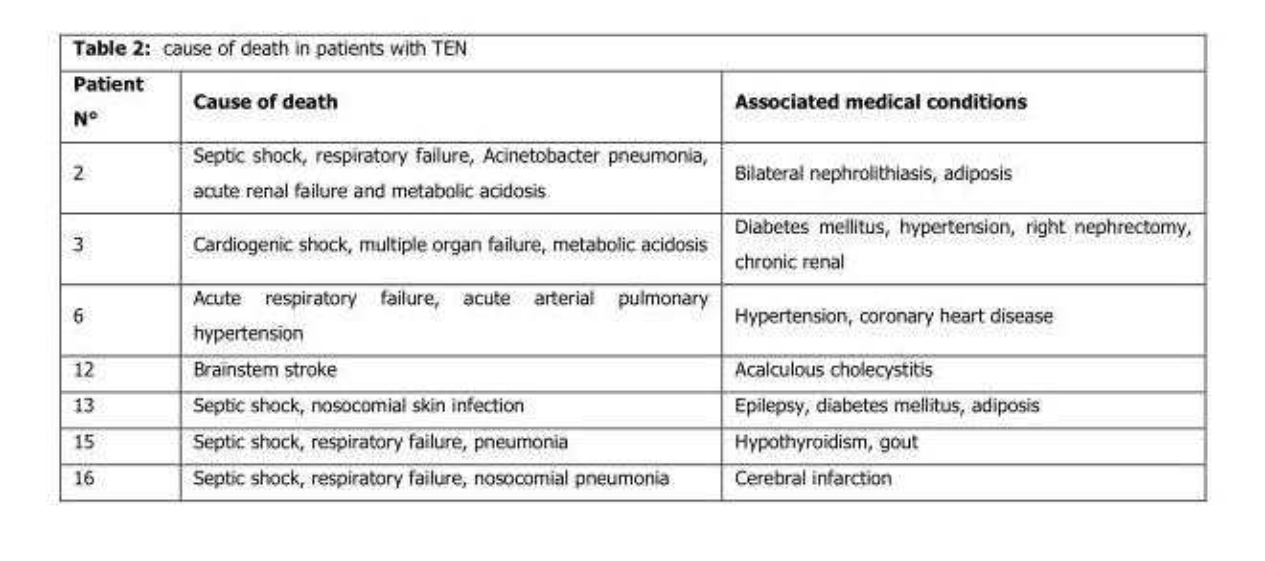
<table><thead><tr><td>Patient N°</td><td>Cause of death</td><td>Associated medical conditions</td></tr></thead><tbody><tr><td>2</td><td>Septic shock, respiratory failure, Acinetobacter pneumonia, acute renal failure and metabolic acidosis</td><td>Bilateral nephrolithiasis, adiposis</td></tr><tr><td>3</td><td>Cardiogenic shock, multiple organ failure, metabolic acidosis</td><td>Diabetes mellitus, hypertension, right nephrectomy, chronic renal</td></tr><tr><td>6</td><td>Acute respiratory failure, acute arterial pulmonary hypertension</td><td>Hypertension, coronary heart disease</td></tr><tr><td>12</td><td>Brainstem stroke</td><td>Acalculous cholecystitis</td></tr><tr><td>13</td><td>Septic shock, nosocomial skin infection</td><td>Epilepsy, diabetes mellitus, adiposis</td></tr><tr><td>15</td><td>Septic shock, respiratory failure, pneumonia</td><td>Hypothyroidism, gout</td></tr><tr><td>16</td><td>Septic shock, respiratory failure, nosocomial pneumonia</td><td>Cerebral infarction</td></tr></tbody></table>